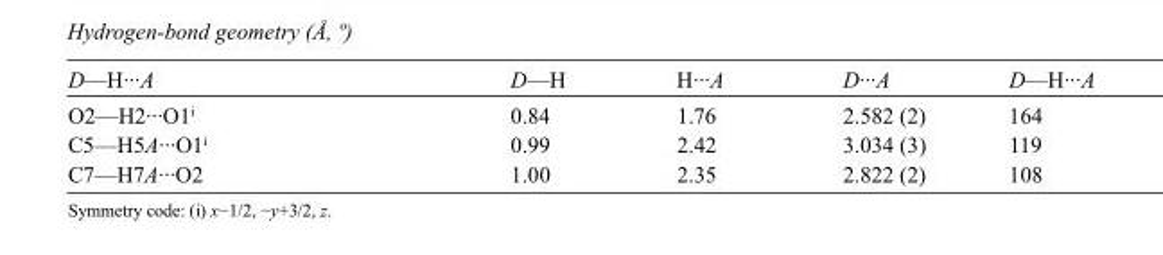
<table><tbody><tr><td>D—H···A</td><td>D—H</td><td>H···A</td><td>D···A</td><td>D—H···A</td></tr><tr><td>O2—H2···O1<sup>i</sup></td><td>0.84</td><td>1.76</td><td>2.582 (2)</td><td>164</td></tr><tr><td>C5—H5A···O1<sup>i</sup></td><td>0.99</td><td>2.42</td><td>3.034 (3)</td><td>119</td></tr><tr><td>C7—H7A···O2</td><td>1.00</td><td>2.35</td><td>2.822 (2)</td><td>108</td></tr></tbody></table>